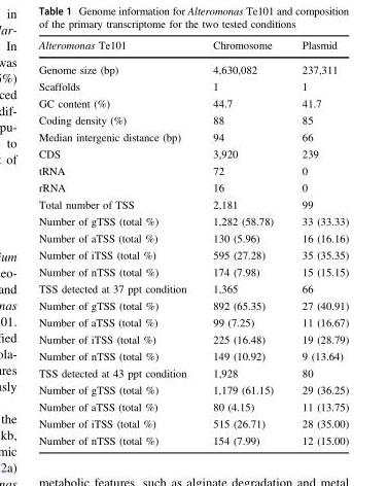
<table><thead><tr><td>Alteromonas Te101</td><td>Chromosome</td><td>Plasmid</td></tr></thead><tbody><tr><td>Genome size (bp)</td><td>4,630,082</td><td>237,311</td></tr><tr><td>Scaffolds</td><td>1</td><td>1</td></tr><tr><td>GC content (%)</td><td>44.7</td><td>41.7</td></tr><tr><td>Coding density (%)</td><td>88</td><td>85</td></tr><tr><td>Median intergenic distance (bp)</td><td>94</td><td>66</td></tr><tr><td>CDS</td><td>3,920</td><td>239</td></tr><tr><td>tRNA</td><td>72</td><td>0</td></tr><tr><td>rRNA</td><td>16</td><td>0</td></tr><tr><td>Total number of TSS</td><td>2,181</td><td>99</td></tr><tr><td>Number of gTSS (total %)</td><td>1,282 (58.78)</td><td>33 (33.33)</td></tr><tr><td>Number of aTSS (total %)</td><td>130 (5.96)</td><td>16 (16.16)</td></tr><tr><td>Number of iTSS (total %)</td><td>595 (27.28)</td><td>35 (35.35)</td></tr><tr><td>Number of nTSS (total %)</td><td>174 (7.98)</td><td>15 (15.15)</td></tr><tr><td>TSS detected at 37 ppt condition</td><td>1,365</td><td>66</td></tr><tr><td>Number of gTSS (total %)</td><td>892 (65.35)</td><td>27 (40.91)</td></tr><tr><td>Number of aTSS (total %)</td><td>99 (7.25)</td><td>11 (16.67)</td></tr><tr><td>Number of iTSS (total %)</td><td>225 (16.48)</td><td>19 (28.79)</td></tr><tr><td>Number of nTSS (total %)</td><td>149 (10.92)</td><td>9 (13.64)</td></tr><tr><td>TSS detected at 43 ppt condition</td><td>1,928</td><td>80</td></tr><tr><td>Number of gTSS (total %)</td><td>1,179 (61.15)</td><td>29 (36.25)</td></tr><tr><td>Number of aTSS (total %)</td><td>80 (4.15)</td><td>11 (13.75)</td></tr><tr><td>Number of iTSS (total %)</td><td>515 (26.71)</td><td>28 (35.00)</td></tr><tr><td>Number of nTSS (total %)</td><td>154 (7.99)</td><td>12 (15.00)</td></tr></tbody></table>